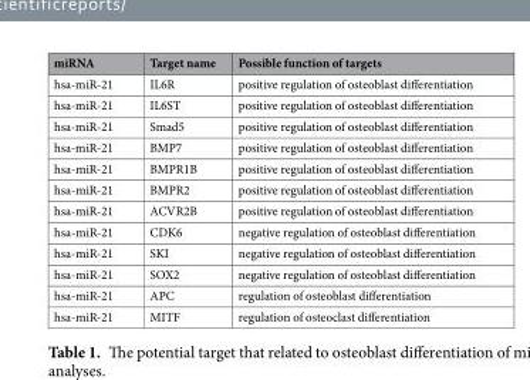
<table><thead><tr><td>miRNA</td><td>Target name</td><td>Possible function of targets</td></tr></thead><tbody><tr><td>hsa-miR-21</td><td>IL6R</td><td>positive regulation of osteoblast differentiation</td></tr><tr><td>hsa-miR-21</td><td>IL6ST</td><td>positive regulation of osteoblast differentiation</td></tr><tr><td>hsa-miR-21</td><td>Smad5</td><td>positive regulation of osteoblast differentiation</td></tr><tr><td>hsa-miR-21</td><td>BMP7</td><td>positive regulation of osteoblast differentiation</td></tr><tr><td>hsa-miR-21</td><td>BMPR1B</td><td>positive regulation of osteoblast differentiation</td></tr><tr><td>hsa-miR-21</td><td>BMPR2</td><td>positive regulation of osteoblast differentiation</td></tr><tr><td>hsa-miR-21</td><td>ACVR2B</td><td>positive regulation of osteoblast differentiation</td></tr><tr><td>hsa-miR-21</td><td>CDK6</td><td>negative regulation of osteoblast differentiation</td></tr><tr><td>hsa-miR-21</td><td>SKI</td><td>negative regulation of osteoblast differentiation</td></tr><tr><td>hsa-miR-21</td><td>SOX2</td><td>negative regulation of osteoblast differentiation</td></tr><tr><td>hsa-miR-21</td><td>APC</td><td>regulation of osteoblast differentiation</td></tr><tr><td>hsa-miR-21</td><td>MITF</td><td>regulation of osteoclast differentiation</td></tr></tbody></table>